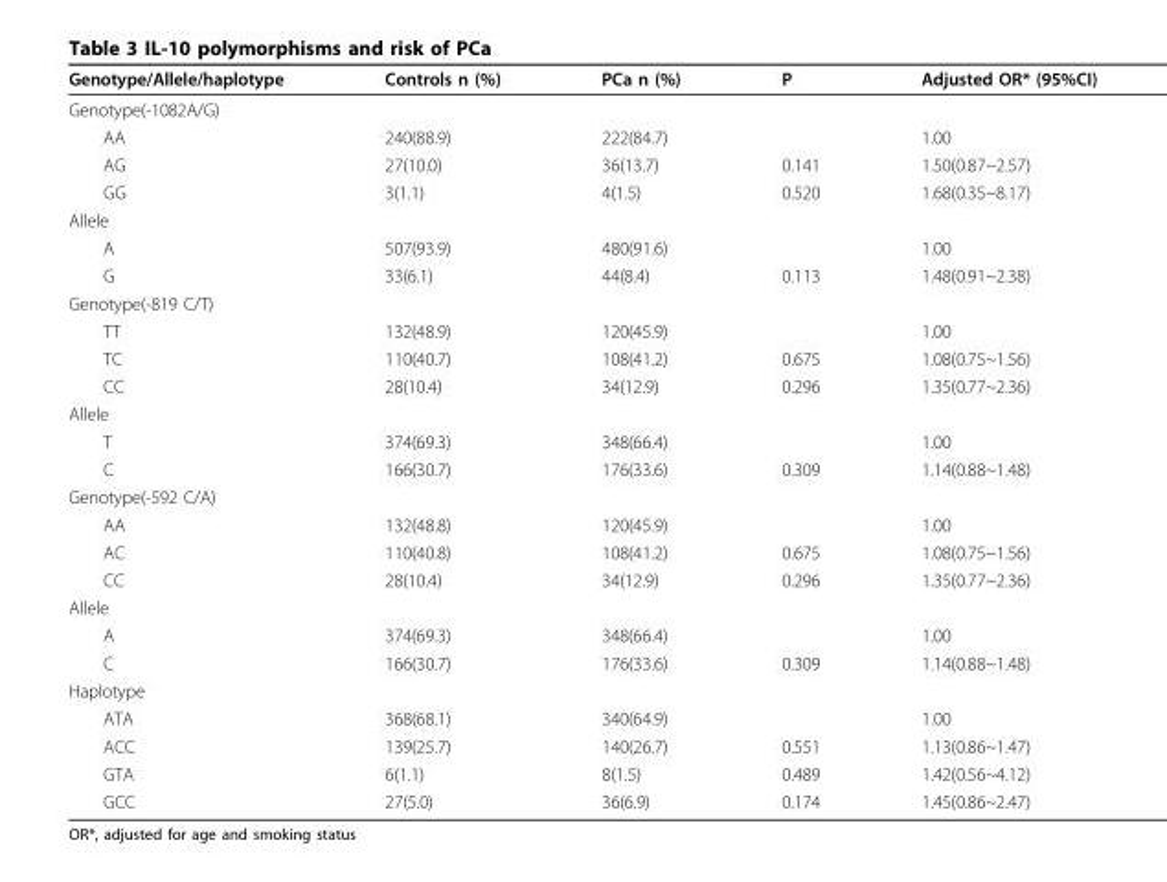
<table><thead><tr><td>Genotype/Allele/haplotype</td><td>Controls n (%)</td><td>PCa n (%)</td><td>P</td><td>Adjusted OR* (95%CI)</td></tr></thead><tbody><tr><td colspan="5">Genotype(-1082A/G)</td></tr><tr><td>AA</td><td>240(88.9)</td><td>222(84.7)</td><td></td><td>1.00</td></tr><tr><td>AG</td><td>27(10.0)</td><td>36(13.7)</td><td>0.141</td><td>1.50(0.87~2.57)</td></tr><tr><td>GG</td><td>3(1.1)</td><td>4(1.5)</td><td>0.520</td><td>1.68(0.35~8.17)</td></tr><tr><td colspan="5">Allele</td></tr><tr><td>A</td><td>507(93.9)</td><td>480(91.6)</td><td></td><td>1.00</td></tr><tr><td>G</td><td>33(6.1)</td><td>44(8.4)</td><td>0.113</td><td>1.48(0.91~2.38)</td></tr><tr><td colspan="5">Genotype(-819 C/T)</td></tr><tr><td>TT</td><td>132(48.9)</td><td>120(45.9)</td><td></td><td>1.00</td></tr><tr><td>TC</td><td>110(40.7)</td><td>108(41.2)</td><td>0.675</td><td>1.08(0.75~1.56)</td></tr><tr><td>CC</td><td>28(10.4)</td><td>34(12.9)</td><td>0.296</td><td>1.35(0.77~2.36)</td></tr><tr><td colspan="5">Allele</td></tr><tr><td>T</td><td>374(69.3)</td><td>348(66.4)</td><td></td><td>1.00</td></tr><tr><td>C</td><td>166(30.7)</td><td>176(33.6)</td><td>0.309</td><td>1.14(0.88~1.48)</td></tr><tr><td colspan="5">Genotype(-592 C/A)</td></tr><tr><td>AA</td><td>132(48.8)</td><td>120(45.9)</td><td></td><td>1.00</td></tr><tr><td>AC</td><td>110(40.8)</td><td>108(41.2)</td><td>0.675</td><td>1.08(0.75~1.56)</td></tr><tr><td>CC</td><td>28(10.4)</td><td>34(12.9)</td><td>0.296</td><td>1.35(0.77~2.36)</td></tr><tr><td colspan="5">Allele</td></tr><tr><td>A</td><td>374(69.3)</td><td>348(66.4)</td><td></td><td>1.00</td></tr><tr><td>C</td><td>166(30.7)</td><td>176(33.6)</td><td>0.309</td><td>1.14(0.88~1.48)</td></tr><tr><td colspan="5">Haplotype</td></tr><tr><td>ATA</td><td>368(68.1)</td><td>340(64.9)</td><td></td><td>1.00</td></tr><tr><td>ACC</td><td>139(25.7)</td><td>140(26.7)</td><td>0.551</td><td>1.13(0.86~1.47)</td></tr><tr><td>GTA</td><td>6(1.1)</td><td>8(1.5)</td><td>0.489</td><td>1.42(0.56~4.12)</td></tr><tr><td>GCC</td><td>27(5.0)</td><td>36(6.9)</td><td>0.174</td><td>1.45(0.86~2.47)</td></tr></tbody></table>